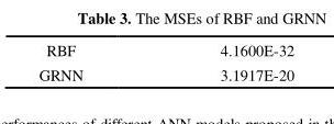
<table><tbody><tr><td>RBF</td><td>4.1600E-32</td></tr><tr><td>GRNN</td><td>3.1917E-20</td></tr></tbody></table>